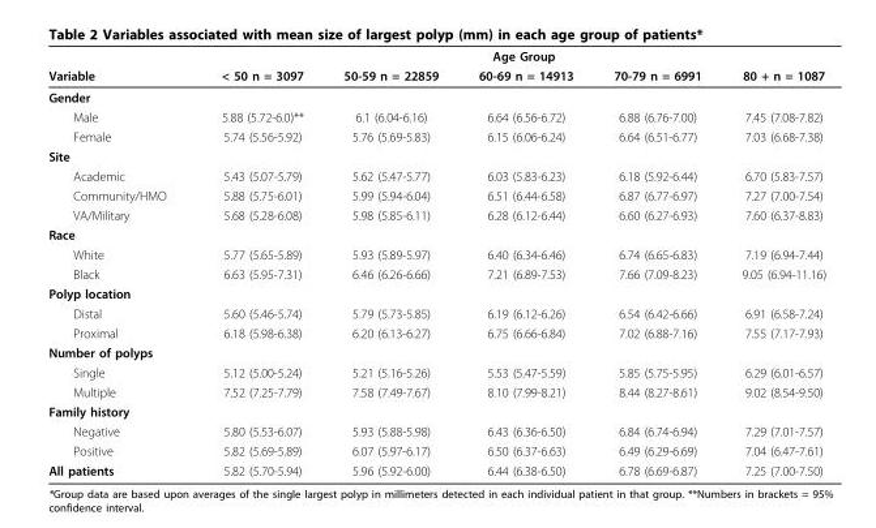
<table><thead><tr><td rowspan="2">Variable</td><td colspan="5">Age Group</td></tr><tr><td>&lt; 50 n = 3097</td><td>50-59 n = 22859</td><td>60-69 n = 14913</td><td>70-79 n = 6991</td><td>80 + n = 1087</td></tr></thead><tbody><tr><td colspan="6">Gender</td></tr><tr><td>Male</td><td>5.88 (5.72-6.0)**</td><td>6.1 (6.04-6.16)</td><td>6.64 (6.56-6.72)</td><td>6.88 (6.76-7.00)</td><td>7.45 (7.08-7.82)</td></tr><tr><td>Female</td><td>5.74 (5.56-5.92)</td><td>5.76 (5.69-5.83)</td><td>6.15 (6.06-6.24)</td><td>6.64 (6.51-6.77)</td><td>7.03 (6.68-7.38)</td></tr><tr><td colspan="6">Site</td></tr><tr><td>Academic</td><td>5.43 (5.07-5.79)</td><td>5.62 (5.47-5.77)</td><td>6.03 (5.83-6.23)</td><td>6.18 (5.92-6.44)</td><td>6.70 (5.83-7.57)</td></tr><tr><td>Community/HMO</td><td>5.88 (5.75-6.01)</td><td>5.99 (5.94-6.04)</td><td>6.51 (6.44-6.58)</td><td>6.87 (6.77-6.97)</td><td>7.27 (7.00-7.54)</td></tr><tr><td>VA/Military</td><td>5.68 (5.28-6.08)</td><td>5.98 (5.85-6.11)</td><td>6.28 (6.12-6.44)</td><td>6.60 (6.27-6.93)</td><td>7.60 (6.37-8.83)</td></tr><tr><td colspan="6">Race</td></tr><tr><td>White</td><td>5.77 (5.65-5.89)</td><td>5.93 (5.89-5.97)</td><td>6.40 (6.34-6.46)</td><td>6.74 (6.65-6.83)</td><td>7.19 (6.94-7.44)</td></tr><tr><td>Black</td><td>6.63 (5.95-7.31)</td><td>6.46 (6.26-6.66)</td><td>7.21 (6.89-7.53)</td><td>7.66 (7.09-8.23)</td><td>9.05 (6.94-11.16)</td></tr><tr><td colspan="6">Polyp location</td></tr><tr><td>Distal</td><td>5.60 (5.46-5.74)</td><td>5.79 (5.73-5.85)</td><td>6.19 (6.12-6.26)</td><td>6.54 (6.42-6.66)</td><td>6.91 (6.58-7.24)</td></tr><tr><td>Proximal</td><td>6.18 (5.98-6.38)</td><td>6.20 (6.13-6.27)</td><td>6.75 (6.66-6.84)</td><td>7.02 (6.88-7.16)</td><td>7.55 (7.17-7.93)</td></tr><tr><td colspan="6">Number of polyps</td></tr><tr><td>Single</td><td>5.12 (5.00-5.24)</td><td>5.21 (5.16-5.26)</td><td>5.53 (5.47-5.59)</td><td>5.85 (5.75-5.95)</td><td>6.29 (6.01-6.57)</td></tr><tr><td>Multiple</td><td>7.52 (7.25-7.79)</td><td>7.58 (7.49-7.67)</td><td>8.10 (7.99-8.21)</td><td>8.44 (8.27-8.61)</td><td>9.02 (8.54-9.50)</td></tr><tr><td colspan="6">Family history</td></tr><tr><td>Negative</td><td>5.80 (5.53-6.07)</td><td>5.93 (5.88-5.98)</td><td>6.43 (6.36-6.50)</td><td>6.84 (6.74-6.94)</td><td>7.29 (7.01-7.57)</td></tr><tr><td>Positive</td><td>5.82 (5.69-5.89)</td><td>6.07 (5.97-6.17)</td><td>6.50 (6.37-6.63)</td><td>6.49 (6.29-6.69)</td><td>7.04 (6.47-7.61)</td></tr><tr><td>All patients</td><td>5.82 (5.70-5.94)</td><td>5.96 (5.92-6.00)</td><td>6.44 (6.38-6.50)</td><td>6.78 (6.69-6.87)</td><td>7.25 (7.00-7.50)</td></tr></tbody></table>